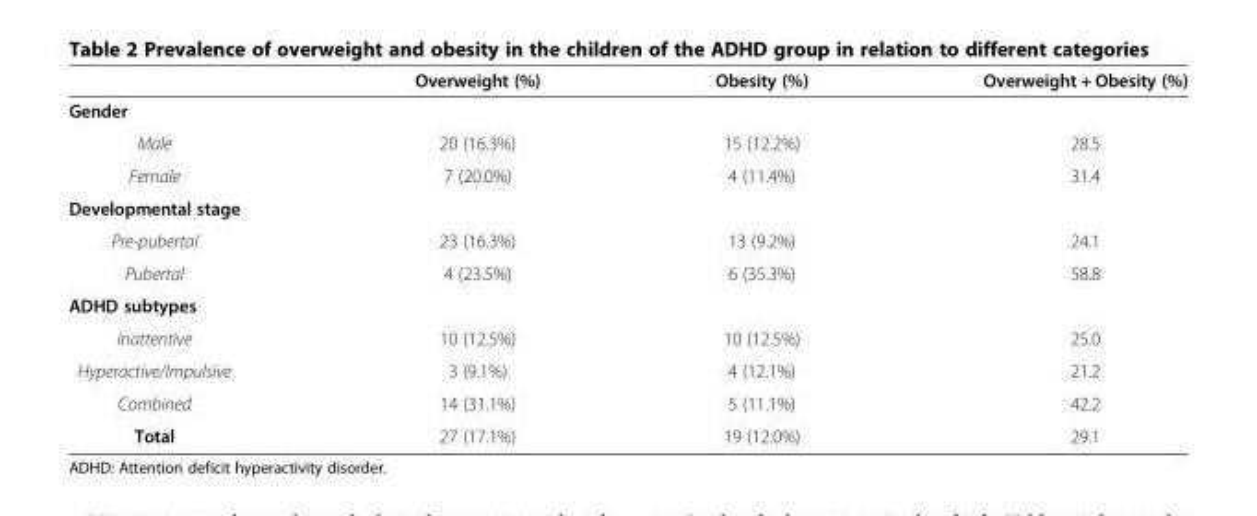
<table><thead><tr><td></td><td>Overweight (%)</td><td>Obesity (%)</td><td>Overweight + Obesity (%)</td></tr></thead><tbody><tr><td colspan="4">Gender</td></tr><tr><td>Male</td><td>20 (16.3%)</td><td>15 (12.2%)</td><td>28.5</td></tr><tr><td>Female</td><td>7 (20.0%)</td><td>4 (11.4%)</td><td>31.4</td></tr><tr><td colspan="4">Developmental stage</td></tr><tr><td>Pre-pubertal</td><td>23 (16.3%)</td><td>13 (9.2%)</td><td>24.1</td></tr><tr><td>Pubertal</td><td>4 (23.5%)</td><td>6 (35.3%)</td><td>58.8</td></tr><tr><td colspan="4">ADHD subtypes</td></tr><tr><td>Inattentive</td><td>10 (12.5%)</td><td>10 (12.5%)</td><td>25.0</td></tr><tr><td>Hyperactive/Impulsive</td><td>3 (9.1%)</td><td>4 (12.1%)</td><td>21.2</td></tr><tr><td>Combined</td><td>14 (31.1%)</td><td>5 (11.1%)</td><td>42.2</td></tr><tr><td>Total</td><td>27 (17.1%)</td><td>19 (12.0%)</td><td>29.1</td></tr></tbody></table>